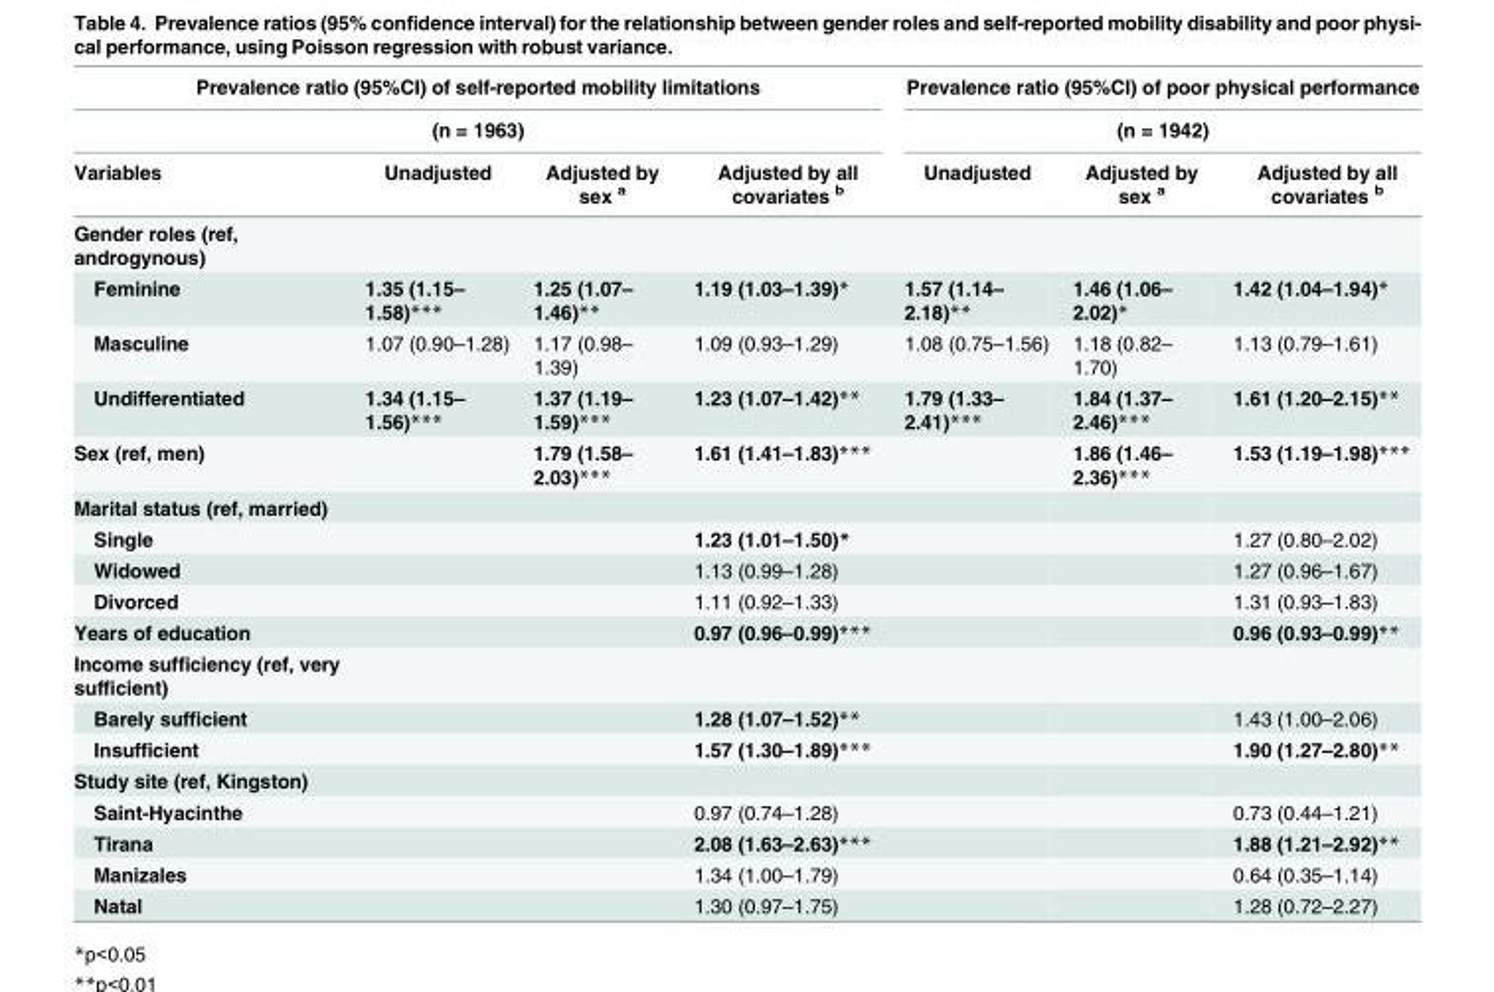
<table><thead><tr><td rowspan="2" colspan="4">Prevalence ratio (95%CI) of self-reported mobility limitations (n = 1963)</td><td rowspan="2" colspan="3">Prevalence ratio (95%CI) of poor physical performance (n = 1942)</td></tr><tr></tr><tr><td>Variables</td><td>Unadjusted</td><td>Adjusted by sex <sup>a</sup></td><td>Adjusted by all covariates <sup>b</sup></td><td>Unadjusted</td><td>Adjusted by sex <sup>a</sup></td><td>Adjusted by all covariates <sup>b</sup></td></tr></thead><tbody><tr><td colspan="7">Gender roles (ref, androgynous)</td></tr><tr><td>Feminine</td><td>1.35 (1.15– 1.58)***</td><td>1.25 (1.07– 1.46)**</td><td>1.19 (1.03–1.39)*</td><td>1.57 (1.14– 2.18)**</td><td>1.46 (1.06– 2.02)*</td><td>1.42 (1.04–1.94)*</td></tr><tr><td>Masculine</td><td>1.07 (0.90–1.28)</td><td>1.17 (0.98– 1.39)</td><td>1.09 (0.93–1.29)</td><td>1.08 (0.75–1.56)</td><td>1.18 (0.82– 1.70)</td><td>1.13 (0.79–1.61)</td></tr><tr><td>Undifferentiated</td><td>1.34 (1.15– 1.56)***</td><td>1.37 (1.19– 1.59)***</td><td>1.23 (1.07–1.42)**</td><td>1.79 (1.33– 2.41)***</td><td>1.84 (1.37– 2.46)***</td><td>1.61 (1.20–2.15)**</td></tr><tr><td>Sex (ref, men)</td><td></td><td>1.79 (1.58– 2.03)***</td><td>1.61 (1.41–1.83)***</td><td></td><td>1.86 (1.46– 2.36)***</td><td>1.53 (1.19–1.98)***</td></tr><tr><td colspan="7">Marital status (ref, married)</td></tr><tr><td>Single</td><td></td><td></td><td>1.23 (1.01–1.50)*</td><td></td><td></td><td>1.27 (0.80–2.02)</td></tr><tr><td>Widowed</td><td></td><td></td><td>1.13 (0.99–1.28)</td><td></td><td></td><td>1.27 (0.96–1.67)</td></tr><tr><td>Divorced</td><td></td><td></td><td>1.11 (0.92–1.33)</td><td></td><td></td><td>1.31 (0.93–1.83)</td></tr><tr><td>Years of education</td><td></td><td></td><td>0.97 (0.96–0.99)***</td><td></td><td></td><td>0.96 (0.93–0.99)**</td></tr><tr><td colspan="7">Income sufficiency (ref, very sufficient)</td></tr><tr><td>Barely sufficient</td><td></td><td></td><td>1.28 (1.07–1.52)**</td><td></td><td></td><td>1.43 (1.00–2.06)</td></tr><tr><td>Insufficient</td><td></td><td></td><td>1.57 (1.30–1.89)***</td><td></td><td></td><td>1.90 (1.27–2.80)**</td></tr><tr><td colspan="7">Study site (ref, Kingston)</td></tr><tr><td>Saint-Hyacinthe</td><td></td><td></td><td>0.97 (0.74–1.28)</td><td></td><td></td><td>0.73 (0.44–1.21)</td></tr><tr><td>Tirana</td><td></td><td></td><td>2.08 (1.63–2.63)***</td><td></td><td></td><td>1.88 (1.21–2.92)**</td></tr><tr><td>Manizales</td><td></td><td></td><td>1.34 (1.00–1.79)</td><td></td><td></td><td>0.64 (0.35–1.14)</td></tr><tr><td>Natal</td><td></td><td></td><td>1.30 (0.97–1.75)</td><td></td><td></td><td>1.28 (0.72–2.27)</td></tr></tbody></table>